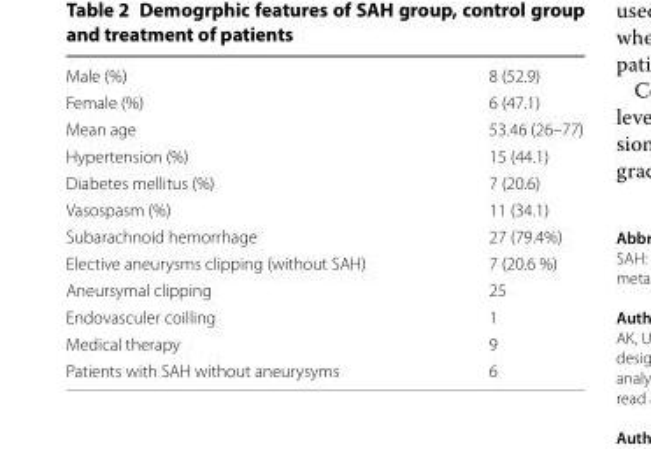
<table><tbody><tr><td>Male (%)</td><td>8 (52.9)</td></tr><tr><td>Female (%)</td><td>6 (47.1)</td></tr><tr><td>Mean age</td><td>53.46 (26–77)</td></tr><tr><td>Hypertension (%)</td><td>15 (44.1)</td></tr><tr><td>Diabetes mellitus (%)</td><td>7 (20.6)</td></tr><tr><td>Vasospasm (%)</td><td>11 (34.1)</td></tr><tr><td>Subarachnoid hemorrhage</td><td>27 (79.4%)</td></tr><tr><td>Elective aneurysms clipping (without SAH)</td><td>7 (20.6 %)</td></tr><tr><td>Aneursymal clipping</td><td>25</td></tr><tr><td>Endovasculer coilling</td><td>1</td></tr><tr><td>Medical therapy</td><td>9</td></tr><tr><td>Patients with SAH without aneurysyms</td><td>6</td></tr></tbody></table>